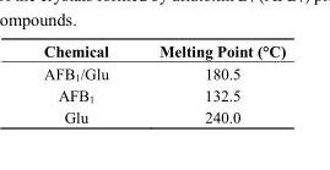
<table><thead><tr><td>Chemical</td><td>Melting Point (°C)</td></tr></thead><tbody><tr><td>AFB<sub>1</sub>/Glu</td><td>180.5</td></tr><tr><td>AFB<sub>1</sub></td><td>132.5</td></tr><tr><td>Glu</td><td>240.0</td></tr></tbody></table>